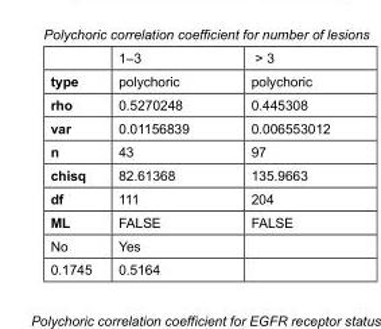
<table><thead><tr><td></td><td>1–3</td><td>&gt; 3</td></tr></thead><tbody><tr><td>type</td><td>polychoric</td><td>polychoric</td></tr><tr><td>rho</td><td>0.5270248</td><td>0.445308</td></tr><tr><td>var</td><td>0.01156839</td><td>0.006553012</td></tr><tr><td>n</td><td>43</td><td>97</td></tr><tr><td>chisq</td><td>82.61368</td><td>135.9663</td></tr><tr><td>df</td><td>111</td><td>204</td></tr><tr><td>ML</td><td>FALSE</td><td>FALSE</td></tr><tr><td>No</td><td>Yes</td><td></td></tr><tr><td>0.1745</td><td>0.5164</td><td></td></tr></tbody></table>